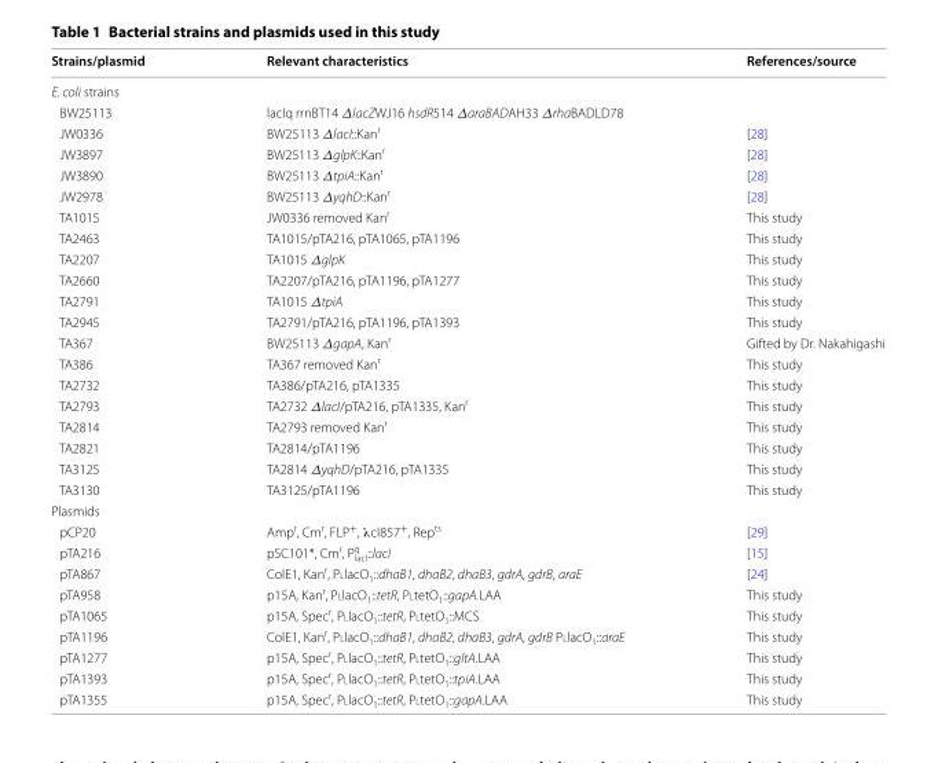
<table><thead><tr><td>Strains/plasmid</td><td>Relevant characteristics</td><td>References/source</td></tr></thead><tbody><tr><td colspan="3">E. coli strains</td></tr><tr><td>BW25113</td><td>lacIq rrnBT14 ΔlacZWJ16 hsdR514 ΔaraBADAH33 ΔrhaBADLD78</td><td></td></tr><tr><td>JW0336</td><td>BW25113 ΔlacI::Kan<sup>r</sup></td><td>[28]</td></tr><tr><td>JW3897</td><td>BW25113 ΔglpK::Kan<sup>r</sup></td><td>[28]</td></tr><tr><td>JW3890</td><td>BW25113 ΔtpiA::Kan<sup>r</sup></td><td>[28]</td></tr><tr><td>JW2978</td><td>BW25113 ΔyqhD::Kan<sup>r</sup></td><td>[28]</td></tr><tr><td>TA1015</td><td>JW0336 removed Kan<sup>r</sup></td><td>This study</td></tr><tr><td>TA2463</td><td>TA1015/pTA216, pTA1065, pTA1196</td><td>This study</td></tr><tr><td>TA2207</td><td>TA1015 ΔglpK</td><td>This study</td></tr><tr><td>TA2660</td><td>TA2207/pTA216, pTA1196, pTA1277</td><td>This study</td></tr><tr><td>TA2791</td><td>TA1015 ΔtpiA</td><td>This study</td></tr><tr><td>TA2945</td><td>TA2791/pTA216, pTA1196, pTA1393</td><td>This study</td></tr><tr><td>TA367</td><td>BW25113 ΔgapA, Kan<sup>r</sup></td><td>Gifted by Dr. Nakahigashi</td></tr><tr><td>TA386</td><td>TA367 removed Kan<sup>r</sup></td><td>This study</td></tr><tr><td>TA2732</td><td>TA386/pTA216, pTA1335</td><td>This study</td></tr><tr><td>TA2793</td><td>TA2732 ΔlacI/pTA216, pTA1335, Kan<sup>r</sup></td><td>This study</td></tr><tr><td>TA2814</td><td>TA2793 removed Kan<sup>r</sup></td><td>This study</td></tr><tr><td>TA2821</td><td>TA2814/pTA1196</td><td>This study</td></tr><tr><td>TA3125</td><td>TA2814 ΔyqhD/pTA216, pTA1335</td><td>This study</td></tr><tr><td>TA3130</td><td>TA3125/pTA1196</td><td>This study</td></tr><tr><td colspan="3">Plasmids</td></tr><tr><td>pCP20</td><td>Amp<sup>r</sup>, Cm<sup>r</sup>, FLP<sup>+</sup>, λcI857<sup>+</sup>, Rep<sup>ts</sup></td><td>[29]</td></tr><tr><td>pTA216</td><td>pSC101*, Cmr, Pq lacI::lacI</td><td>[15]</td></tr><tr><td>pTA867</td><td>ColE1, Kan<sup>r</sup>, PllacO<sub>1</sub>::dhaB1, dhaB2, dhaB3, gdrA, gdrB, araE</td><td>[24]</td></tr><tr><td>pTA958</td><td>p15A, Kan<sup>r</sup>, PllacO<sub>1</sub>::tetR, PltetO<sub>1</sub>::gapA.LAA</td><td>This study</td></tr><tr><td>pTA1065</td><td>p15A, Spec<sup>r</sup>, PllacO<sub>1</sub>::tetR, PltetO<sub>1</sub>::MCS</td><td>This study</td></tr><tr><td>pTA1196</td><td>ColE1, Kan<sup>r</sup>, PllacO<sub>1</sub>::dhaB1, dhaB2, dhaB3, gdrA, gdrB PllacO<sub>1</sub>::araE</td><td>This study</td></tr><tr><td>pTA1277</td><td>p15A, Spec<sup>r</sup>, PllacO<sub>1</sub>::tetR, PltetO<sub>1</sub>::gltA.LAA</td><td>This study</td></tr><tr><td>pTA1393</td><td>p15A, Spec<sup>r</sup>, PllacO<sub>1</sub>::tetR, PltetO<sub>1</sub>::tpiA.LAA</td><td>This study</td></tr><tr><td>pTA1355</td><td>p15A, Spec<sup>r</sup>, PllacO<sub>1</sub>::tetR, PltetO<sub>1</sub>::gapA.LAA</td><td>This study</td></tr></tbody></table>